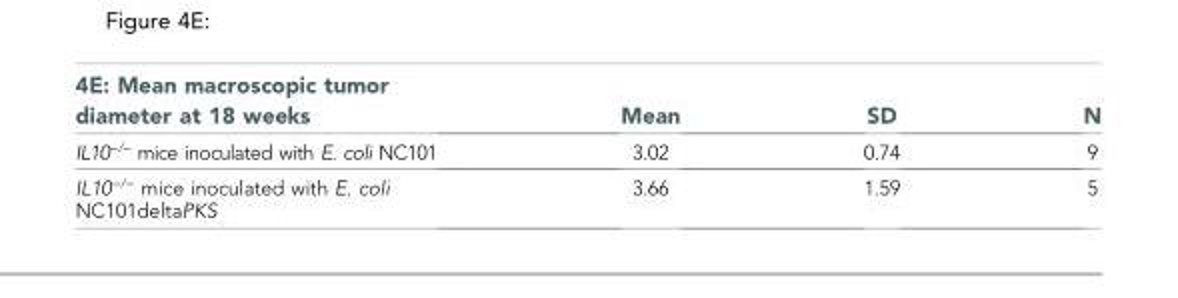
<table><thead><tr><td>4E: Mean macroscopic tumor diameter at 18 weeks</td><td>Mean</td><td>SD</td><td>N</td></tr></thead><tbody><tr><td>IL10<sup>−/−</sup> mice inoculated with E. coli NC101</td><td>3.02</td><td>0.74</td><td>9</td></tr><tr><td>IL10<sup>−/−</sup> mice inoculated with E. coli NC101deltaPKS</td><td>3.66</td><td>1.59</td><td>5</td></tr></tbody></table>